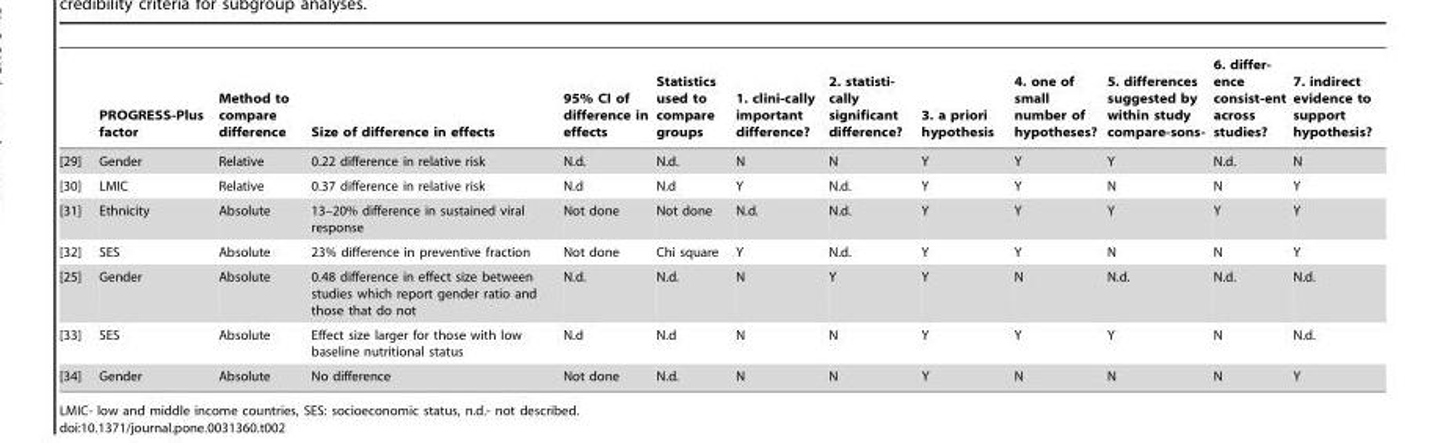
<table><thead><tr><td></td><td>PROGRESS-Plus factor</td><td>Method to compare difference</td><td>Size of difference in effects</td><td>95% CI of difference in effects</td><td>Statistics used to compare groups</td><td>1. clini-cally important difference?</td><td>2. statisti- cally significant difference?</td><td>3. a priori hypothesis</td><td>4. one of small number of hypotheses?</td><td>5. differences suggested by within study compare-sons-</td><td>6. differ- ence consist-ent across studies?</td><td>7. indirect evidence to support hypothesis?</td></tr></thead><tbody><tr><td>[29]</td><td>Gender</td><td>Relative</td><td>0.22 difference in relative risk</td><td>N.d.</td><td>N.d.</td><td>N</td><td>N</td><td>Y</td><td>Y</td><td>Y</td><td>N.d.</td><td>N</td></tr><tr><td>[30]</td><td>LMIC</td><td>Relative</td><td>0.37 difference in relative risk</td><td>N.d</td><td>N.d</td><td>Y</td><td>N.d.</td><td>Y</td><td>Y</td><td>N</td><td>N</td><td>Y</td></tr><tr><td>[31]</td><td>Ethnicity</td><td>Absolute</td><td>13–20% difference in sustained viral response</td><td>Not done</td><td>Not done</td><td>N.d.</td><td>N.d.</td><td>Y</td><td>Y</td><td>Y</td><td>Y</td><td>Y</td></tr><tr><td>[32]</td><td>SES</td><td>Absolute</td><td>23% difference in preventive fraction</td><td>Not done</td><td>Chi square</td><td>Y</td><td>N.d.</td><td>Y</td><td>Y</td><td>N</td><td>N</td><td>Y</td></tr><tr><td>[25]</td><td>Gender</td><td>Absolute</td><td>0.48 difference in effect size between studies which report gender ratio and those that do not</td><td>N.d.</td><td>N.d.</td><td>N</td><td>Y</td><td>Y</td><td>N</td><td>N.d.</td><td>N.d.</td><td>N.d.</td></tr><tr><td>[33]</td><td>SES</td><td>Absolute</td><td>Effect size larger for those with low baseline nutritional status</td><td>N.d</td><td>N.d</td><td>N</td><td>N</td><td>Y</td><td>Y</td><td>Y</td><td>N</td><td>N.d.</td></tr><tr><td>[34]</td><td>Gender</td><td>Absolute</td><td>No difference</td><td>Not done</td><td>N.d.</td><td>N</td><td>N</td><td>Y</td><td>N</td><td>N</td><td>N</td><td>Y</td></tr></tbody></table>